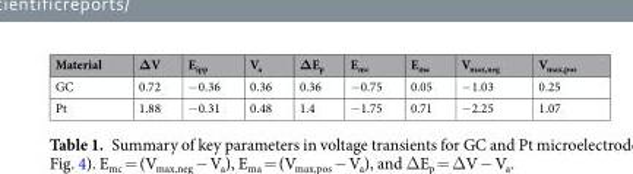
<table><thead><tr><td>Material</td><td>ΔV</td><td>E<sub>ipp</sub></td><td>V<sub>a</sub></td><td>ΔE<sub>p</sub></td><td>E<sub>mc</sub></td><td>E<sub>ma</sub></td><td>V<sub>max,neg</sub></td><td>V<sub>max,pos</sub></td></tr></thead><tbody><tr><td>GC</td><td>0.72</td><td>−0.36</td><td>0.36</td><td>0.36</td><td>−0.75</td><td>0.05</td><td>−1.03</td><td>0.25</td></tr><tr><td>Pt</td><td>1.88</td><td>−0.31</td><td>0.48</td><td>1.4</td><td>−1.75</td><td>0.71</td><td>−2.25</td><td>1.07</td></tr></tbody></table>